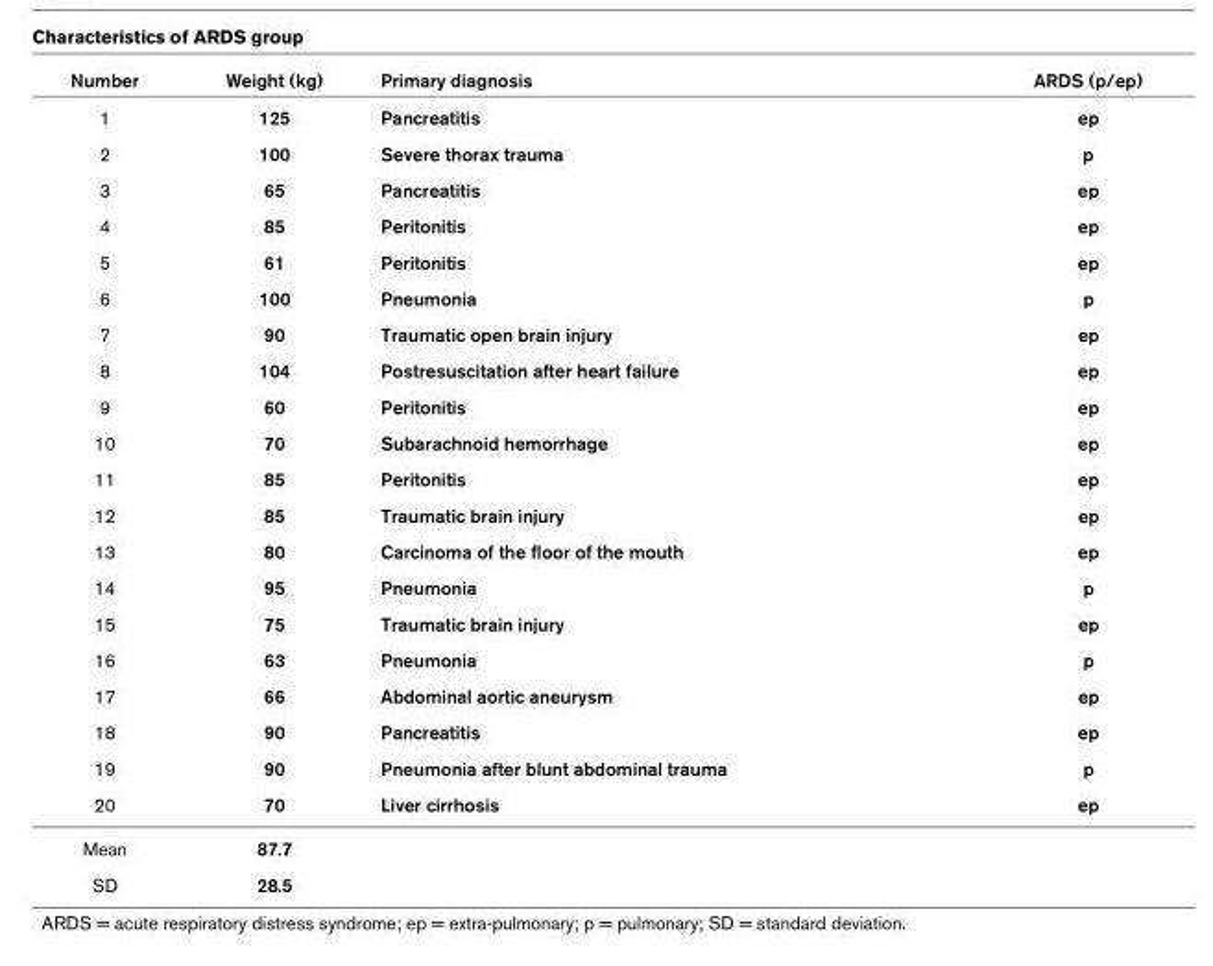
<table><thead><tr><td>Number</td><td>Weight (kg)</td><td>Primary diagnosis</td><td>ARDS (p/ep)</td></tr></thead><tbody><tr><td>1</td><td>125</td><td>Pancreatitis</td><td>ep</td></tr><tr><td>2</td><td>100</td><td>Severe thorax trauma</td><td>p</td></tr><tr><td>3</td><td>65</td><td>Pancreatitis</td><td>ep</td></tr><tr><td>4</td><td>85</td><td>Peritonitis</td><td>ep</td></tr><tr><td>5</td><td>61</td><td>Peritonitis</td><td>ep</td></tr><tr><td>6</td><td>100</td><td>Pneumonia</td><td>p</td></tr><tr><td>7</td><td>90</td><td>Traumatic open brain injury</td><td>ep</td></tr><tr><td>8</td><td>104</td><td>Postresuscitation after heart failure</td><td>ep</td></tr><tr><td>9</td><td>60</td><td>Peritonitis</td><td>ep</td></tr><tr><td>10</td><td>70</td><td>Subarachnoid hemorrhage</td><td>ep</td></tr><tr><td>11</td><td>85</td><td>Peritonitis</td><td>ep</td></tr><tr><td>12</td><td>85</td><td>Traumatic brain injury</td><td>ep</td></tr><tr><td>13</td><td>80</td><td>Carcinoma of the floor of the mouth</td><td>ep</td></tr><tr><td>14</td><td>95</td><td>Pneumonia</td><td>p</td></tr><tr><td>15</td><td>75</td><td>Traumatic brain injury</td><td>ep</td></tr><tr><td>16</td><td>63</td><td>Pneumonia</td><td>p</td></tr><tr><td>17</td><td>66</td><td>Abdominal aortic aneurysm</td><td>ep</td></tr><tr><td>18</td><td>90</td><td>Pancreatitis</td><td>ep</td></tr><tr><td>19</td><td>90</td><td>Pneumonia after blunt abdominal trauma</td><td>p</td></tr><tr><td>20</td><td>70</td><td>Liver cirrhosis</td><td>ep</td></tr><tr><td>Mean</td><td>87.7</td><td></td><td></td></tr><tr><td>SD</td><td>28.5</td><td></td><td></td></tr></tbody></table>